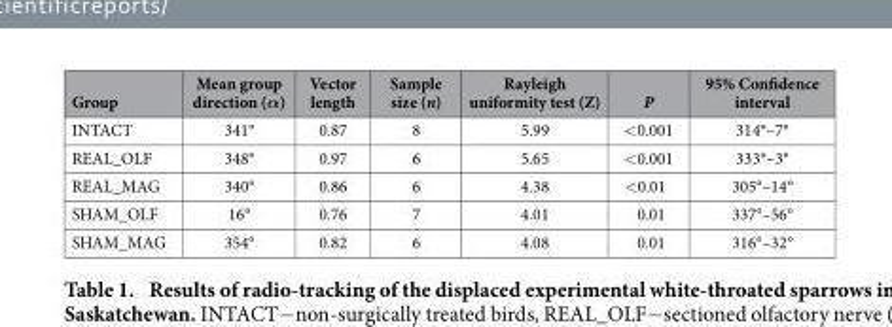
<table><thead><tr><td>Group</td><td>Mean group direction (α)</td><td>Vector length</td><td>Sample size (n)</td><td>Rayleigh uniformity test (Z)</td><td>P</td><td>95% Confidence interval</td></tr></thead><tbody><tr><td>INTACT</td><td>341°</td><td>0.87</td><td>8</td><td>5.99</td><td>&lt; 0.001</td><td>314°–7°</td></tr><tr><td>REAL_OLF</td><td>348°</td><td>0.97</td><td>6</td><td>5.65</td><td>&lt; 0.001</td><td>333°–3°</td></tr><tr><td>REAL_MAG</td><td>340°</td><td>0.86</td><td>6</td><td>4.38</td><td>&lt; 0.01</td><td>305°–14°</td></tr><tr><td>SHAM_OLF</td><td>16°</td><td>0.76</td><td>7</td><td>4.01</td><td>0.01</td><td>337°–56°</td></tr><tr><td>SHAM_MAG</td><td>354°</td><td>0.82</td><td>6</td><td>4.08</td><td>0.01</td><td>316°–32°</td></tr></tbody></table>